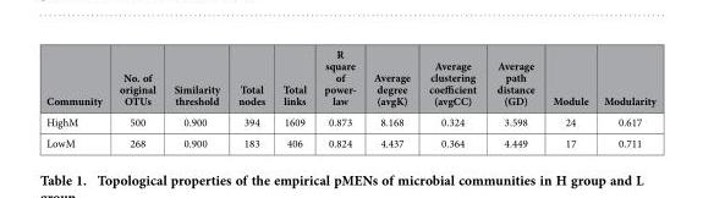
<table><thead><tr><td>Community</td><td>No. of original OTUs</td><td>Similarity threshold</td><td>Total nodes</td><td>Total links</td><td>R square of power- law</td><td>Average degree (avgK)</td><td>Average clustering coefficient (avgCC)</td><td>Average path distance (GD)</td><td>Module</td><td>Modularity</td></tr></thead><tbody><tr><td>HighM</td><td>500</td><td>0.900</td><td>394</td><td>1609</td><td>0.873</td><td>8.168</td><td>0.324</td><td>3.598</td><td>24</td><td>0.617</td></tr><tr><td>LowM</td><td>268</td><td>0.900</td><td>183</td><td>406</td><td>0.824</td><td>4.437</td><td>0.364</td><td>4.449</td><td>17</td><td>0.711</td></tr></tbody></table>